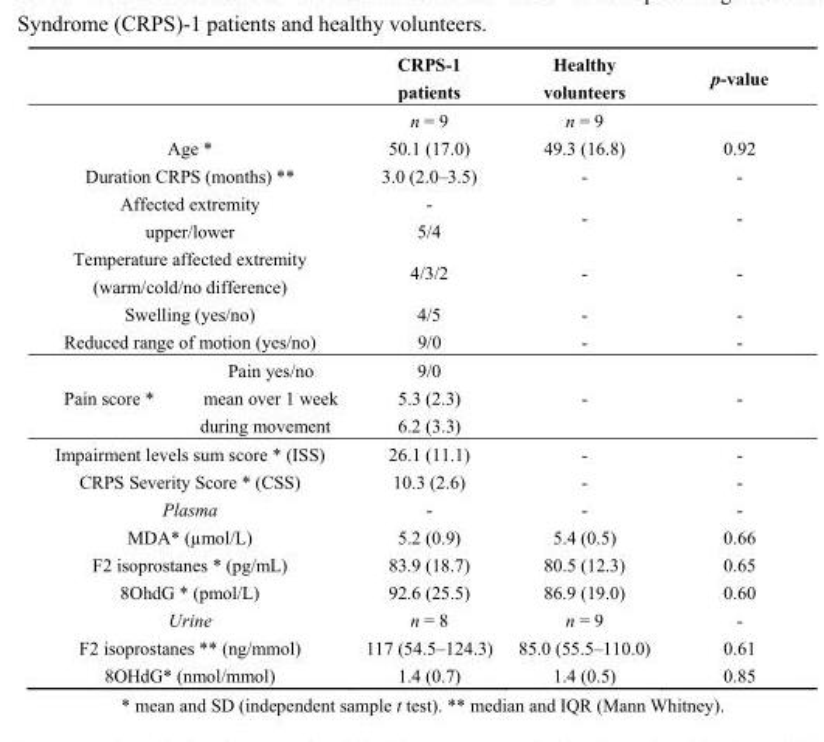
<table><thead><tr><td></td><td></td><td>CRPS-1 patients</td><td>Healthy volunteers</td><td>p-value</td></tr></thead><tbody><tr><td colspan="2"></td><td>n = 9</td><td>n = 9</td><td></td></tr><tr><td colspan="2">Age *</td><td>50.1 (17.0)</td><td>49.3 (16.8)</td><td>0.92</td></tr><tr><td colspan="2">Duration CRPS (months) **</td><td>3.0 (2.0–3.5)</td><td>-</td><td>-</td></tr><tr><td colspan="2">Affected extremity</td><td>-</td><td rowspan="2">-</td><td rowspan="2">-</td></tr><tr><td colspan="2">upper/lower</td><td>5/4</td></tr><tr><td colspan="2">Temperature affected extremity (warm/cold/no difference)</td><td>4/3/2</td><td>-</td><td>-</td></tr><tr><td colspan="2">Swelling (yes/no)</td><td>4/5</td><td>-</td><td>-</td></tr><tr><td colspan="2">Reduced range of motion (yes/no)</td><td>9/0</td><td>-</td><td>-</td></tr><tr><td>Pain score *</td><td>Pain yes/no mean over 1 week during movement</td><td>9/0 5.3 (2.3) 6.2 (3.3)</td><td>-</td><td>-</td></tr><tr><td colspan="2">Impairment levels sum score * (ISS)</td><td>26.1 (11.1)</td><td>-</td><td>-</td></tr><tr><td colspan="2">CRPS Severity Score * (CSS)</td><td>10.3 (2.6)</td><td>-</td><td>-</td></tr><tr><td colspan="2">Plasma</td><td>-</td><td>-</td><td>-</td></tr><tr><td colspan="2">MDA* (µmol/L)</td><td>5.2 (0.9)</td><td>5.4 (0.5)</td><td>0.66</td></tr><tr><td colspan="2">F2 isoprostanes * (pg/mL)</td><td>83.9 (18.7)</td><td>80.5 (12.3)</td><td>0.65</td></tr><tr><td colspan="2">8OhdG * (pmol/L)</td><td>92.6 (25.5)</td><td>86.9 (19.0)</td><td>0.60</td></tr><tr><td colspan="2">Urine</td><td>n = 8</td><td>n = 9</td><td>-</td></tr><tr><td colspan="2">F2 isoprostanes ** (ng/mmol)</td><td>117 (54.5–124.3)</td><td>85.0 (55.5–110.0)</td><td>0.61</td></tr><tr><td colspan="2">8OHdG* (nmol/mmol)</td><td>1.4 (0.7)</td><td>1.4 (0.5)</td><td>0.85</td></tr></tbody></table>